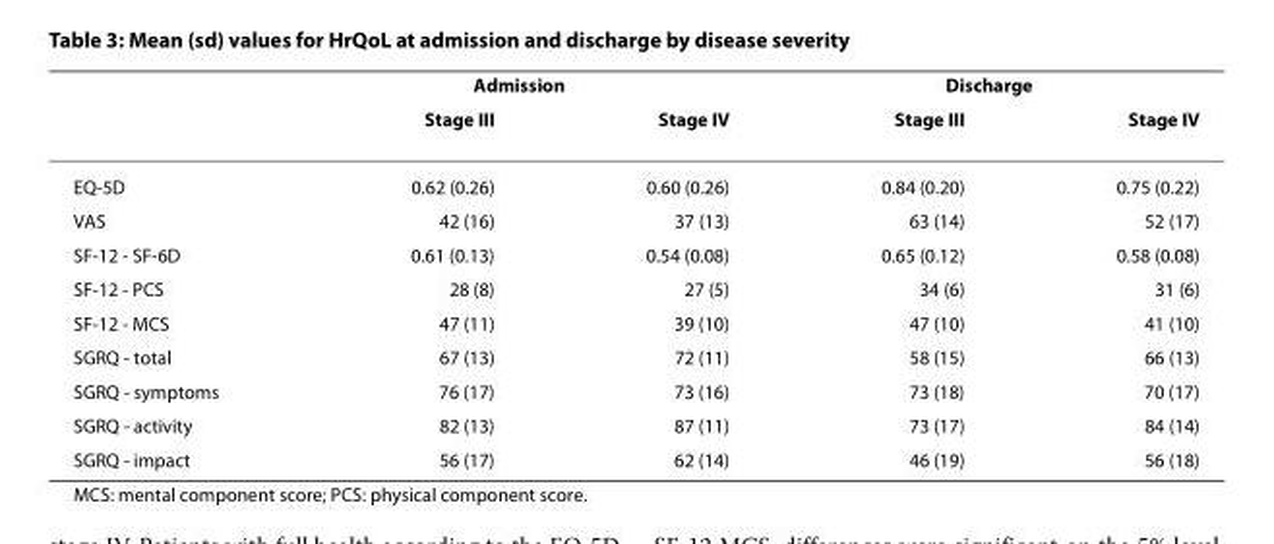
<table><thead><tr><td rowspan="2"></td><td colspan="2">Admission</td><td colspan="2">Discharge</td></tr><tr><td>Stage III</td><td>Stage IV</td><td>Stage III</td><td>Stage IV</td></tr></thead><tbody><tr><td>EQ-5D</td><td>0.62 (0.26)</td><td>0.60 (0.26)</td><td>0.84 (0.20)</td><td>0.75 (0.22)</td></tr><tr><td>VAS</td><td>42 (16)</td><td>37 (13)</td><td>63 (14)</td><td>52 (17)</td></tr><tr><td>SF-12 - SF-6D</td><td>0.61 (0.13)</td><td>0.54 (0.08)</td><td>0.65 (0.12)</td><td>0.58 (0.08)</td></tr><tr><td>SF-12 - PCS</td><td>28 (8)</td><td>27 (5)</td><td>34 (6)</td><td>31 (6)</td></tr><tr><td>SF-12 - MCS</td><td>47 (11)</td><td>39 (10)</td><td>47 (10)</td><td>41 (10)</td></tr><tr><td>SGRQ - total</td><td>67 (13)</td><td>72 (11)</td><td>58 (15)</td><td>66 (13)</td></tr><tr><td>SGRQ - symptoms</td><td>76 (17)</td><td>73 (16)</td><td>73 (18)</td><td>70 (17)</td></tr><tr><td>SGRQ - activity</td><td>82 (13)</td><td>87 (11)</td><td>73 (17)</td><td>84 (14)</td></tr><tr><td>SGRQ - impact</td><td>56 (17)</td><td>62 (14)</td><td>46 (19)</td><td>56 (18)</td></tr></tbody></table>